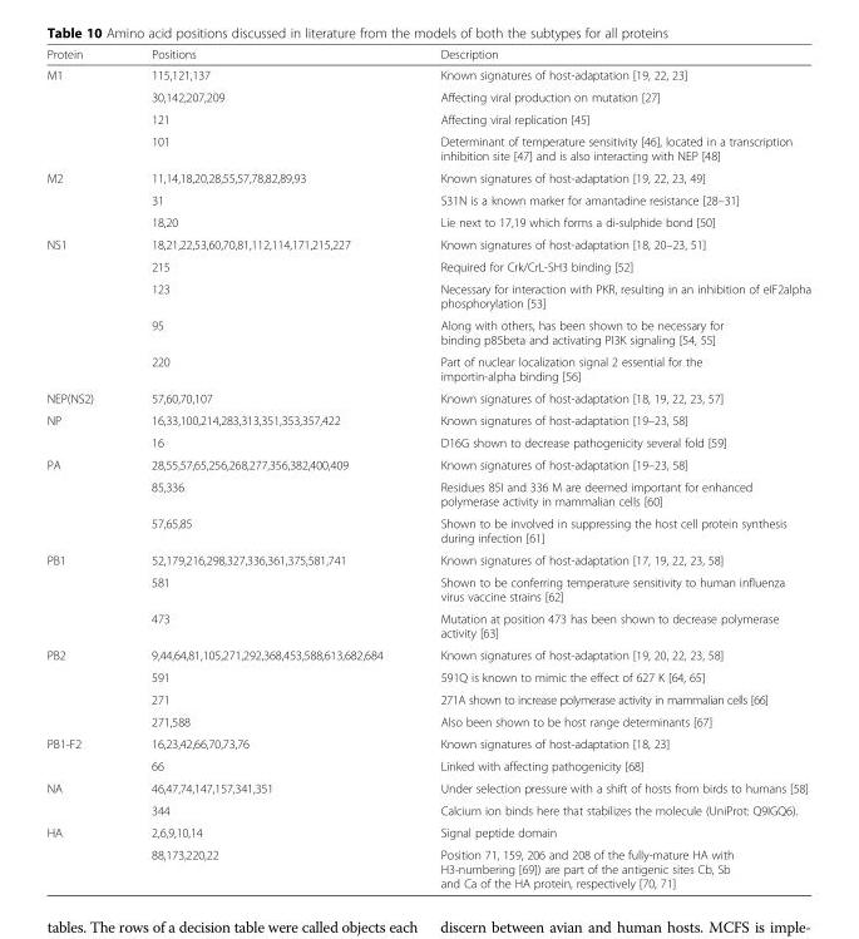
<table><thead><tr><td>Protein</td><td>Positions</td><td>Description</td></tr></thead><tbody><tr><td rowspan="4">M1</td><td>115,121,137</td><td>Known signatures of host-adaptation [19, 22, 23]</td></tr><tr><td>30,142,207,209</td><td>Affecting viral production on mutation [27]</td></tr><tr><td>121</td><td>Affecting viral replication [45]</td></tr><tr><td>101</td><td>Determinant of temperature sensitivity [46], located in a transcription inhibition site [47] and is also interacting with NEP [48]</td></tr><tr><td rowspan="3">M2</td><td>11,14,18,20,28,55,57,78,82,89,93</td><td>Known signatures of host-adaptation [19, 22, 23, 49]</td></tr><tr><td>31</td><td>S31N is a known marker for amantadine resistance [28–31]</td></tr><tr><td>18,20</td><td>Lie next to 17,19 which forms a di-sulphide bond [50]</td></tr><tr><td rowspan="5">NS1</td><td>18,21,22,53,60,70,81,112,114,171,215,227</td><td>Known signatures of host-adaptation [18, 20–23, 51]</td></tr><tr><td>215</td><td>Required for Crk/CrL-SH3 binding [52]</td></tr><tr><td>123</td><td>Necessary for interaction with PKR, resulting in an inhibition of eIF2alpha phosphorylation [53]</td></tr><tr><td>95</td><td>Along with others, has been shown to be necessary for binding p85beta and activating PI3K signaling [54, 55]</td></tr><tr><td>220</td><td>Part of nuclear localization signal 2 essential for the importin-alpha binding [56]</td></tr><tr><td>NEP(NS2)</td><td>57,60,70,107</td><td>Known signatures of host-adaptation [18, 19, 22, 23, 57]</td></tr><tr><td rowspan="2">NP</td><td>16,33,100,214,283,313,351,353,357,422</td><td>Known signatures of host-adaptation [19–23, 58]</td></tr><tr><td>16</td><td>D16G shown to decrease pathogenicity several fold [59]</td></tr><tr><td rowspan="3">PA</td><td>28,55,57,65,256,268,277,356,382,400,409</td><td>Known signatures of host-adaptation [19–23, 58]</td></tr><tr><td>85,336</td><td>Residues 85I and 336 M are deemed important for enhanced polymerase activity in mammalian cells [60]</td></tr><tr><td>57,65,85</td><td>Shown to be involved in suppressing the host cell protein synthesis during infection [61]</td></tr><tr><td rowspan="3">PB1</td><td>52,179,216,298,327,336,361,375,581,741</td><td>Known signatures of host-adaptation [17, 19, 22, 23, 58]</td></tr><tr><td>581</td><td>Shown to be conferring temperature sensitivity to human influenza virus vaccine strains [62]</td></tr><tr><td>473</td><td>Mutation at position 473 has been shown to decrease polymerase activity [63]</td></tr><tr><td rowspan="4">PB2</td><td>9,44,64,81,105,271,292,368,453,588,613,682,684</td><td>Known signatures of host-adaptation [19, 20, 22, 23, 58]</td></tr><tr><td>591</td><td>591Q is known to mimic the effect of 627 K [64, 65]</td></tr><tr><td>271</td><td>271A shown to increase polymerase activity in mammalian cells [66]</td></tr><tr><td>271,588</td><td>Also been shown to be host range determinants [67]</td></tr><tr><td rowspan="2">PB1-F2</td><td>16,23,42,66,70,73,76</td><td>Known signatures of host-adaptation [18, 23]</td></tr><tr><td>66</td><td>Linked with affecting pathogenicity [68]</td></tr><tr><td rowspan="2">NA</td><td>46,47,74,147,157,341,351</td><td>Under selection pressure with a shift of hosts from birds to humans [58]</td></tr><tr><td>344</td><td>Calcium ion binds here that stabilizes the molecule (UniProt: Q9IGQ6).</td></tr><tr><td rowspan="2">HA</td><td>2,6,9,10,14</td><td>Signal peptide domain</td></tr><tr><td>88,173,220,22</td><td>Position 71, 159, 206 and 208 of the fully-mature HA with H3-numbering [69]) are part of the antigenic sites Cb, Sb and Ca of the HA protein, respectively [70, 71]</td></tr></tbody></table>